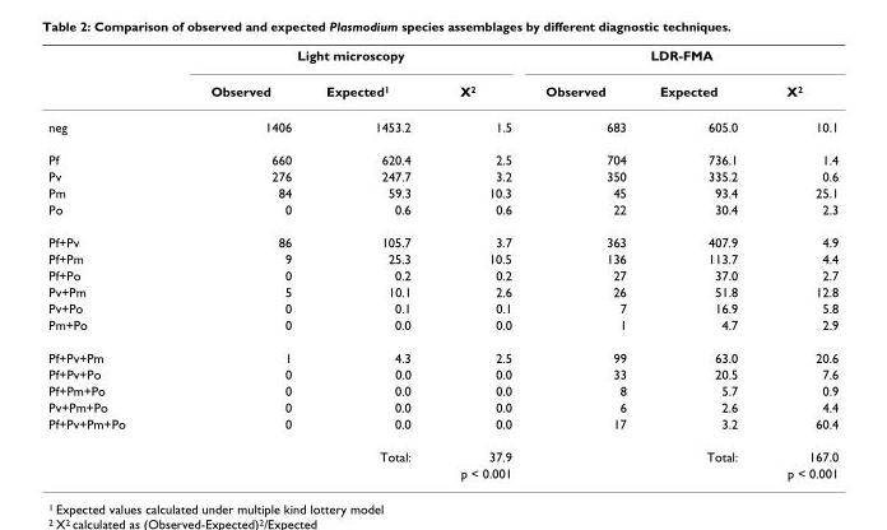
<table><thead><tr><td rowspan="2"></td><td colspan="3">Light microscopy</td><td colspan="3">LDR-FMA</td></tr><tr><td>Observed</td><td>Expected<sup>1</sup></td><td>X<sup>2</sup></td><td>Observed</td><td>Expected</td><td>X<sup>2</sup></td></tr></thead><tbody><tr><td>neg</td><td>1406</td><td>1453.2</td><td>1.5</td><td>683</td><td>605.0</td><td>10.1</td></tr><tr><td>Pf</td><td>660</td><td>620.4</td><td>2.5</td><td>704</td><td>736.1</td><td>1.4</td></tr><tr><td>Pv</td><td>276</td><td>247.7</td><td>3.2</td><td>350</td><td>335.2</td><td>0.6</td></tr><tr><td>Pm</td><td>84</td><td>59.3</td><td>10.3</td><td>45</td><td>93.4</td><td>25.1</td></tr><tr><td>Po</td><td>0</td><td>0.6</td><td>0.6</td><td>22</td><td>30.4</td><td>2.3</td></tr><tr><td>Pf+Pv</td><td>86</td><td>105.7</td><td>3.7</td><td>363</td><td>407.9</td><td>4.9</td></tr><tr><td>Pf+Pm</td><td>9</td><td>25.3</td><td>10.5</td><td>136</td><td>113.7</td><td>4.4</td></tr><tr><td>Pf+Po</td><td>0</td><td>0.2</td><td>0.2</td><td>27</td><td>37.0</td><td>2.7</td></tr><tr><td>Pv+Pm</td><td>5</td><td>10.1</td><td>2.6</td><td>26</td><td>51.8</td><td>12.8</td></tr><tr><td>Pv+Po</td><td>0</td><td>0.1</td><td>0.1</td><td>7</td><td>16.9</td><td>5.8</td></tr><tr><td>Pm+Po</td><td>0</td><td>0.0</td><td>0.0</td><td>1</td><td>4.7</td><td>2.9</td></tr><tr><td>Pf+Pv+Pm</td><td>1</td><td>4.3</td><td>2.5</td><td>99</td><td>63.0</td><td>20.6</td></tr><tr><td>Pf+Pv+Po</td><td>0</td><td>0.0</td><td>0.0</td><td>33</td><td>20.5</td><td>7.6</td></tr><tr><td>Pf+Pm+Po</td><td>0</td><td>0.0</td><td>0.0</td><td>8</td><td>5.7</td><td>0.9</td></tr><tr><td>Pv+Pm+Po</td><td>0</td><td>0.0</td><td>0.0</td><td>6</td><td>2.6</td><td>4.4</td></tr><tr><td rowspan="3">Pf+Pv+Pm+Po</td><td>0</td><td>0.0</td><td>0.0</td><td>17</td><td>3.2</td><td>60.4</td></tr><tr><td></td><td>Total:</td><td>37.9</td><td></td><td>Total:</td><td>167.0</td></tr><tr><td></td><td></td><td>p &lt; 0.001</td><td></td><td></td><td>p &lt; 0.001</td></tr></tbody></table>